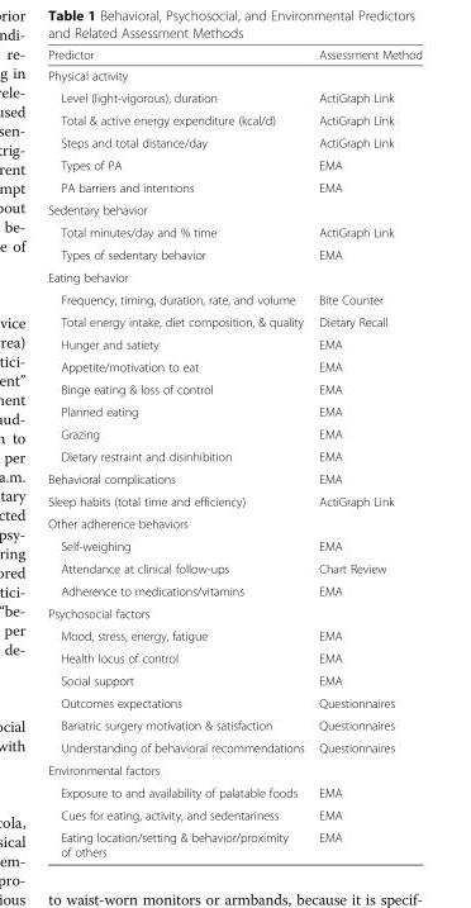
<table><thead><tr><td>Predictor</td><td>Assessment Method</td></tr></thead><tbody><tr><td colspan="2">Physical activity</td></tr><tr><td>Level (light-vigorous), duration</td><td>ActiGraph Link</td></tr><tr><td>Total &amp; active energy expenditure (kcal/d)</td><td>ActiGraph Link</td></tr><tr><td>Steps and total distance/day</td><td>ActiGraph Link</td></tr><tr><td>Types of PA</td><td>EMA</td></tr><tr><td>PA barriers and intentions</td><td>EMA</td></tr><tr><td colspan="2">Sedentary behavior</td></tr><tr><td>Total minutes/day and % time</td><td>ActiGraph Link</td></tr><tr><td>Types of sedentary behavior</td><td>EMA</td></tr><tr><td colspan="2">Eating behavior</td></tr><tr><td>Frequency, timing, duration, rate, and volume</td><td>Bite Counter</td></tr><tr><td>Total energy intake, diet composition, &amp; quality</td><td>Dietary Recall</td></tr><tr><td>Hunger and satiety</td><td>EMA</td></tr><tr><td>Appetite/motivation to eat</td><td>EMA</td></tr><tr><td>Binge eating &amp; loss of control</td><td>EMA</td></tr><tr><td>Planned eating</td><td>EMA</td></tr><tr><td>Grazing</td><td>EMA</td></tr><tr><td>Dietary restraint and disinhibition</td><td>EMA</td></tr><tr><td>Behavioral complications</td><td>EMA</td></tr><tr><td>Sleep habits (total time and efficiency)</td><td>ActiGraph Link</td></tr><tr><td colspan="2">Other adherence behaviors</td></tr><tr><td>Self-weighing</td><td>EMA</td></tr><tr><td>Attendance at clinical follow-ups</td><td>Chart Review</td></tr><tr><td>Adherence to medications/vitamins</td><td>EMA</td></tr><tr><td colspan="2">Psychosocial factors</td></tr><tr><td>Mood, stress, energy, fatigue</td><td>EMA</td></tr><tr><td>Health locus of control</td><td>EMA</td></tr><tr><td>Social support</td><td>EMA</td></tr><tr><td>Outcomes expectations</td><td>Questionnaires</td></tr><tr><td>Bariatric surgery motivation &amp; satisfaction</td><td>Questionnaires</td></tr><tr><td>Understanding of behavioral recommendations</td><td>Questionnaires</td></tr><tr><td colspan="2">Environmental factors</td></tr><tr><td>Exposure to and availability of palatable foods</td><td>EMA</td></tr><tr><td>Cues for eating, activity, and sedentariness</td><td>EMA</td></tr><tr><td>Eating location/setting &amp; behavior/proximity of others</td><td>EMA</td></tr></tbody></table>